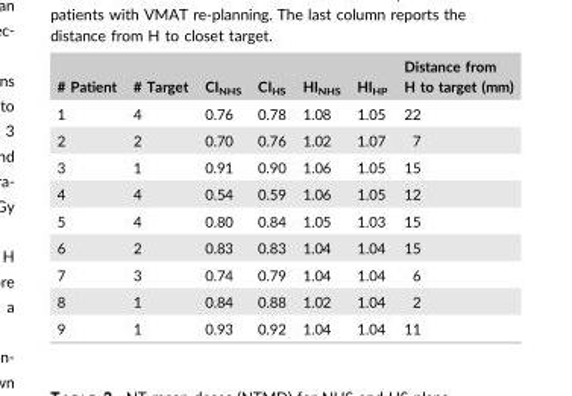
<table><thead><tr><td># Patient</td><td># Target</td><td>CI<sub>NHS</sub></td><td>CI<sub>HS</sub></td><td>HI<sub>NHS</sub></td><td>HI<sub>HP</sub></td><td>Distance from H to target (mm)</td></tr></thead><tbody><tr><td>1</td><td>4</td><td>0.76</td><td>0.78</td><td>1.08</td><td>1.05</td><td>22</td></tr><tr><td>2</td><td>2</td><td>0.70</td><td>0.76</td><td>1.02</td><td>1.07</td><td>7</td></tr><tr><td>3</td><td>1</td><td>0.91</td><td>0.90</td><td>1.06</td><td>1.05</td><td>15</td></tr><tr><td>4</td><td>4</td><td>0.54</td><td>0.59</td><td>1.06</td><td>1.05</td><td>12</td></tr><tr><td>5</td><td>4</td><td>0.80</td><td>0.84</td><td>1.05</td><td>1.03</td><td>15</td></tr><tr><td>6</td><td>2</td><td>0.83</td><td>0.83</td><td>1.04</td><td>1.04</td><td>15</td></tr><tr><td>7</td><td>3</td><td>0.74</td><td>0.79</td><td>1.04</td><td>1.04</td><td>6</td></tr><tr><td>8</td><td>1</td><td>0.84</td><td>0.88</td><td>1.02</td><td>1.04</td><td>2</td></tr><tr><td>9</td><td>1</td><td>0.93</td><td>0.92</td><td>1.04</td><td>1.04</td><td>11</td></tr></tbody></table>